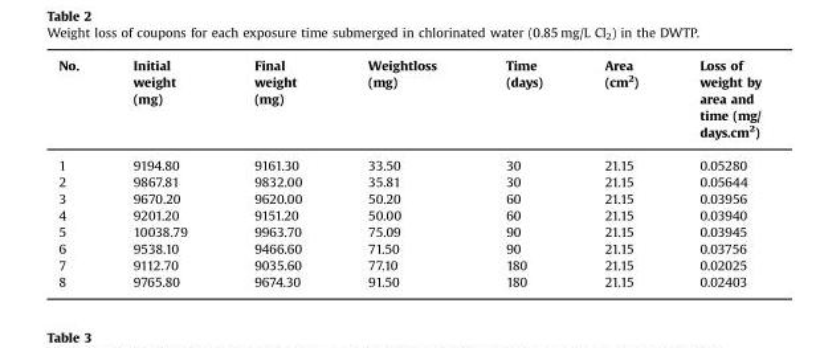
<table><thead><tr><td>No.</td><td>Initial weight (mg)</td><td>Final weight (mg)</td><td>Weightloss (mg)</td><td>Time (days)</td><td>Area (cm<sup>2</sup>)</td><td>Loss of weight by area and time (mg/ days.cm<sup>2</sup>)</td></tr></thead><tbody><tr><td>1</td><td>9194.80</td><td>9161.30</td><td>33.50</td><td>30</td><td>21.15</td><td>0.05280</td></tr><tr><td>2</td><td>9867.81</td><td>9832.00</td><td>35.81</td><td>30</td><td>21.15</td><td>0.05644</td></tr><tr><td>3</td><td>9670.20</td><td>9620.00</td><td>50.20</td><td>60</td><td>21.15</td><td>0.03956</td></tr><tr><td>4</td><td>9201.20</td><td>9151.20</td><td>50.00</td><td>60</td><td>21.15</td><td>0.03940</td></tr><tr><td>5</td><td>10038.79</td><td>9963.70</td><td>75.09</td><td>90</td><td>21.15</td><td>0.03945</td></tr><tr><td>6</td><td>9538.10</td><td>9466.60</td><td>71.50</td><td>90</td><td>21.15</td><td>0.03756</td></tr><tr><td>7</td><td>9112.70</td><td>9035.60</td><td>77.10</td><td>180</td><td>21.15</td><td>0.02025</td></tr><tr><td>8</td><td>9765.80</td><td>9674.30</td><td>91.50</td><td>180</td><td>21.15</td><td>0.02403</td></tr></tbody></table>